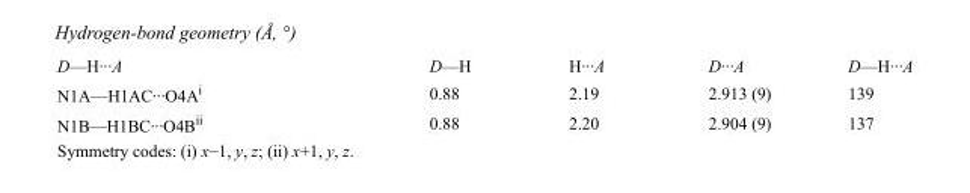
<table><tbody><tr><td>D—H···A</td><td>D—H</td><td>H···A</td><td>D···A</td><td>D—H···A</td></tr><tr><td>N1A—H1AC···O4A<sup>i</sup></td><td>0.88</td><td>2.19</td><td>2.913 (9)</td><td>139</td></tr><tr><td>N1B—H1BC···O4B<sup>ii</sup></td><td>0.88</td><td>2.20</td><td>2.904 (9)</td><td>137</td></tr></tbody></table>